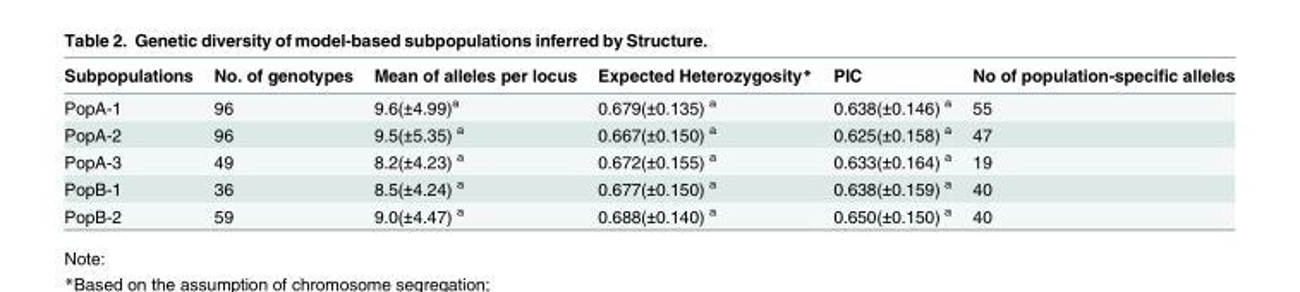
<table><thead><tr><td>Subpopulations</td><td>No. of genotypes</td><td>Mean of alleles per locus</td><td>Expected Heterozygosity*</td><td>PIC</td><td>No of population-specific alleles</td></tr></thead><tbody><tr><td>PopA-1</td><td>96</td><td>9.6(±4.99)<sup>a</sup></td><td>0.679(±0.135) <sup>a</sup></td><td>0.638(±0.146) <sup>a</sup></td><td>55</td></tr><tr><td>PopA-2</td><td>96</td><td>9.5(±5.35) <sup>a</sup></td><td>0.667(±0.150) <sup>a</sup></td><td>0.625(±0.158) <sup>a</sup></td><td>47</td></tr><tr><td>PopA-3</td><td>49</td><td>8.2(±4.23) <sup>a</sup></td><td>0.672(±0.155) <sup>a</sup></td><td>0.633(±0.164) <sup>a</sup></td><td>19</td></tr><tr><td>PopB-1</td><td>36</td><td>8.5(±4.24) <sup>a</sup></td><td>0.677(±0.150) <sup>a</sup></td><td>0.638(±0.159) <sup>a</sup></td><td>40</td></tr><tr><td>PopB-2</td><td>59</td><td>9.0(±4.47) <sup>a</sup></td><td>0.688(±0.140) <sup>a</sup></td><td>0.650(±0.150) <sup>a</sup></td><td>40</td></tr></tbody></table>